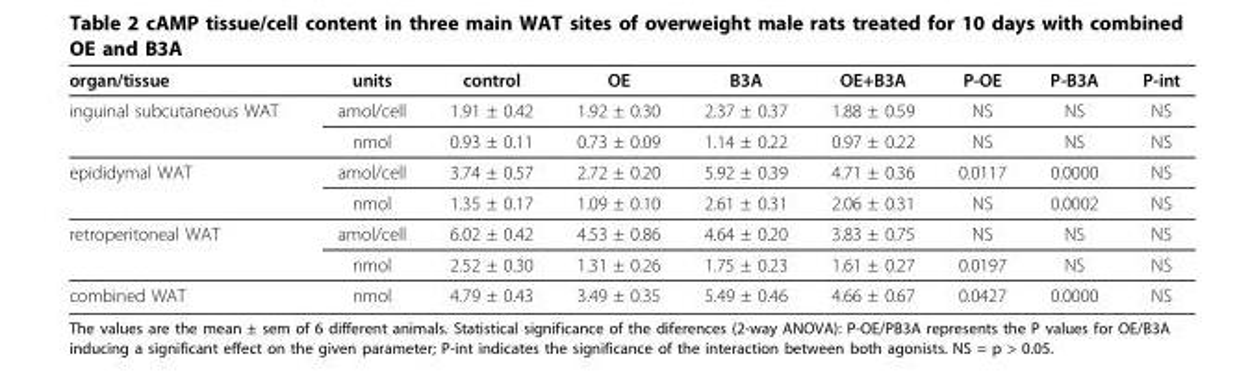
<table><thead><tr><td>organ/tissue</td><td>units</td><td>control</td><td>OE</td><td>B3A</td><td>OE+B3A</td><td>P-OE</td><td>P-B3A</td><td>P-int</td></tr></thead><tbody><tr><td rowspan="2">inguinal subcutaneous WAT</td><td>amol/cell</td><td>1.91 ± 0.42</td><td>1.92 ± 0.30</td><td>2.37 ± 0.37</td><td>1.88 ± 0.59</td><td>NS</td><td>NS</td><td>NS</td></tr><tr><td>nmol</td><td>0.93 ± 0.11</td><td>0.73 ± 0.09</td><td>1.14 ± 0.22</td><td>0.97 ± 0.22</td><td>NS</td><td>NS</td><td>NS</td></tr><tr><td rowspan="2">epididymal WAT</td><td>amol/cell</td><td>3.74 ± 0.57</td><td>2.72 ± 0.20</td><td>5.92 ± 0.39</td><td>4.71 ± 0.36</td><td>0.0117</td><td>0.0000</td><td>NS</td></tr><tr><td>nmol</td><td>1.35 ± 0.17</td><td>1.09 ± 0.10</td><td>2.61 ± 0.31</td><td>2.06 ± 0.31</td><td>NS</td><td>0.0002</td><td>NS</td></tr><tr><td rowspan="2">retroperitoneal WAT</td><td>amol/cell</td><td>6.02 ± 0.42</td><td>4.53 ± 0.86</td><td>4.64 ± 0.20</td><td>3.83 ± 0.75</td><td>NS</td><td>NS</td><td>NS</td></tr><tr><td>nmol</td><td>2.52 ± 0.30</td><td>1.31 ± 0.26</td><td>1.75 ± 0.23</td><td>1.61 ± 0.27</td><td>0.0197</td><td>NS</td><td>NS</td></tr><tr><td>combined WAT</td><td>nmol</td><td>4.79 ± 0.43</td><td>3.49 ± 0.35</td><td>5.49 ± 0.46</td><td>4.66 ± 0.67</td><td>0.0427</td><td>0.0000</td><td>NS</td></tr></tbody></table>